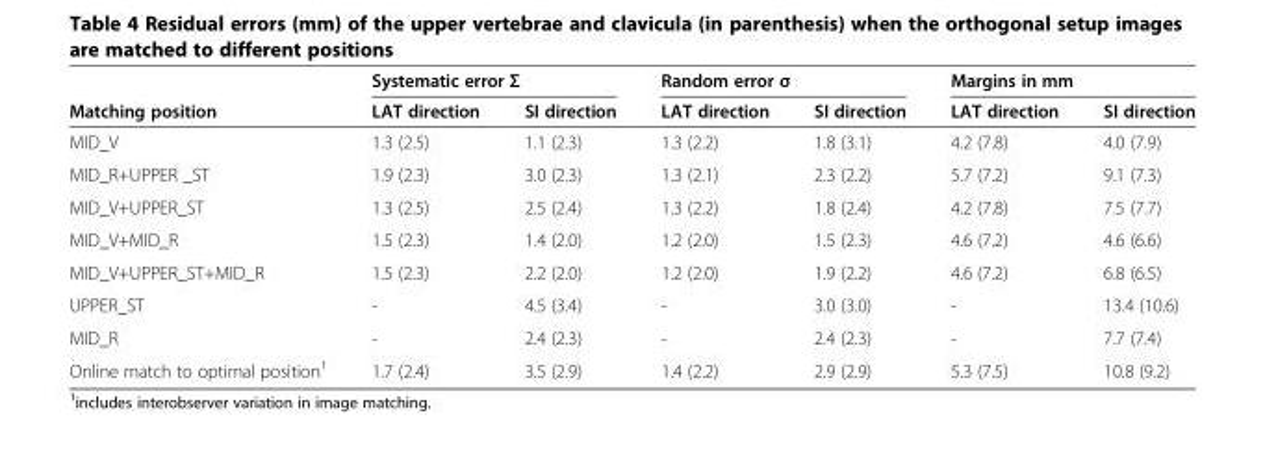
<table><thead><tr><td rowspan="2">Matching position</td><td colspan="2">Systematic error Σ</td><td colspan="2">Random error σ</td><td colspan="2">Margins in mm</td></tr><tr><td>LAT direction</td><td>SI direction</td><td>LAT direction</td><td>SI direction</td><td>LAT direction</td><td>SI direction</td></tr></thead><tbody><tr><td>MID_V</td><td>1.3 (2.5)</td><td>1.1 (2.3)</td><td>1.3 (2.2)</td><td>1.8 (3.1)</td><td>4.2 (7.8)</td><td>4.0 (7.9)</td></tr><tr><td>MID_R+UPPER _ST</td><td>1.9 (2.3)</td><td>3.0 (2.3)</td><td>1.3 (2.1)</td><td>2.3 (2.2)</td><td>5.7 (7.2)</td><td>9.1 (7.3)</td></tr><tr><td>MID_V+UPPER_ST</td><td>1.3 (2.5)</td><td>2.5 (2.4)</td><td>1.3 (2.2)</td><td>1.8 (2.4)</td><td>4.2 (7.8)</td><td>7.5 (7.7)</td></tr><tr><td>MID_V+MID_R</td><td>1.5 (2.3)</td><td>1.4 (2.0)</td><td>1.2 (2.0)</td><td>1.5 (2.3)</td><td>4.6 (7.2)</td><td>4.6 (6.6)</td></tr><tr><td>MID_V+UPPER_ST+MID_R</td><td>1.5 (2.3)</td><td>2.2 (2.0)</td><td>1.2 (2.0)</td><td>1.9 (2.2)</td><td>4.6 (7.2)</td><td>6.8 (6.5)</td></tr><tr><td>UPPER_ST</td><td>-</td><td>4.5 (3.4)</td><td>-</td><td>3.0 (3.0)</td><td>-</td><td>13.4 (10.6)</td></tr><tr><td>MID_R</td><td>-</td><td>2.4 (2.3)</td><td>-</td><td>2.4 (2.3)</td><td>-</td><td>7.7 (7.4)</td></tr><tr><td>Online match to optimal position<sup>1</sup></td><td>1.7 (2.4)</td><td>3.5 (2.9)</td><td>1.4 (2.2)</td><td>2.9 (2.9)</td><td>5.3 (7.5)</td><td>10.8 (9.2)</td></tr></tbody></table>